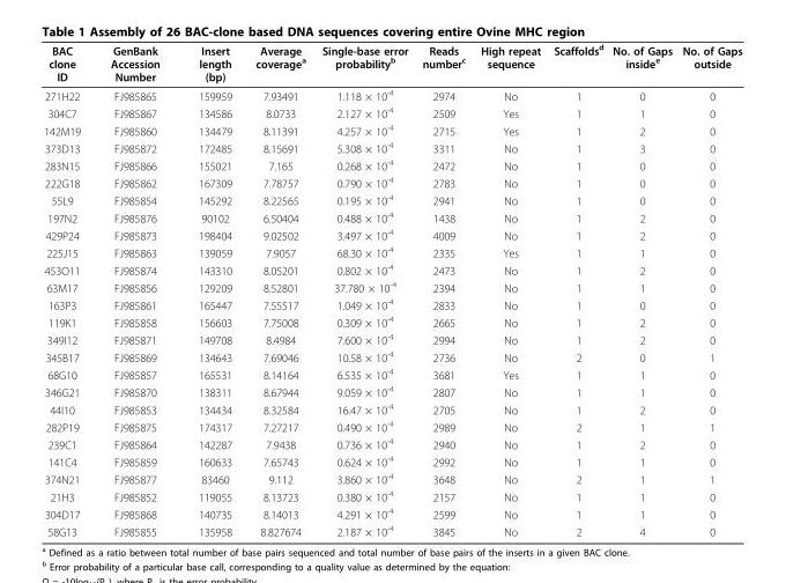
<table><thead><tr><td>BAC clone ID</td><td>GenBank Accession Number</td><td>Insert length (bp)</td><td>Average coverage<sup>a</sup></td><td>Single-base error probability<sup>b</sup></td><td>Reads number<sup>c</sup></td><td>High repeat sequence</td><td>Scaffolds<sup>d</sup></td><td>No. of Gaps inside<sup>e</sup></td><td>No. of Gaps outside</td></tr></thead><tbody><tr><td>271H22</td><td>FJ985865</td><td>159959</td><td>7.93491</td><td>1.118 × 10<sup>-4</sup></td><td>2974</td><td>No</td><td>1</td><td>0</td><td>0</td></tr><tr><td>304C7</td><td>FJ985867</td><td>134586</td><td>8.0733</td><td>2.127 × 10<sup>-4</sup></td><td>2509</td><td>Yes</td><td>1</td><td>1</td><td>0</td></tr><tr><td>142M19</td><td>FJ985860</td><td>134479</td><td>8.11391</td><td>4.257 × 10<sup>-4</sup></td><td>2715</td><td>Yes</td><td>1</td><td>2</td><td>0</td></tr><tr><td>373D13</td><td>FJ985872</td><td>172485</td><td>8.15691</td><td>5.308 × 10<sup>-4</sup></td><td>3311</td><td>No</td><td>1</td><td>3</td><td>0</td></tr><tr><td>283N15</td><td>FJ985866</td><td>155021</td><td>7.165</td><td>0.268 × 10<sup>-4</sup></td><td>2472</td><td>No</td><td>1</td><td>0</td><td>0</td></tr><tr><td>222G18</td><td>FJ985862</td><td>167309</td><td>7.78757</td><td>0.790 × 10<sup>-4</sup></td><td>2783</td><td>No</td><td>1</td><td>0</td><td>0</td></tr><tr><td>55L9</td><td>FJ985854</td><td>145292</td><td>8.22565</td><td>0.195 × 10<sup>-4</sup></td><td>2941</td><td>No</td><td>1</td><td>0</td><td>0</td></tr><tr><td>197N2</td><td>FJ985876</td><td>90102</td><td>6.50404</td><td>0.488 × 10<sup>-4</sup></td><td>1438</td><td>No</td><td>1</td><td>2</td><td>0</td></tr><tr><td>429P24</td><td>FJ985873</td><td>198404</td><td>9.02502</td><td>3.497 × 10<sup>-4</sup></td><td>4009</td><td>No</td><td>1</td><td>2</td><td>0</td></tr><tr><td>225J15</td><td>FJ985863</td><td>139059</td><td>7.9057</td><td>68.30 × 10<sup>-4</sup></td><td>2335</td><td>Yes</td><td>1</td><td>1</td><td>0</td></tr><tr><td>453O11</td><td>FJ985874</td><td>143310</td><td>8.05201</td><td>0.802 × 10<sup>-4</sup></td><td>2473</td><td>No</td><td>1</td><td>2</td><td>0</td></tr><tr><td>63M17</td><td>FJ985856</td><td>129209</td><td>8.52801</td><td>37.780 × 10<sup>-4</sup></td><td>2394</td><td>No</td><td>1</td><td>1</td><td>0</td></tr><tr><td>163P3</td><td>FJ985861</td><td>165447</td><td>7.55517</td><td>1.049 × 10<sup>-4</sup></td><td>2833</td><td>No</td><td>1</td><td>0</td><td>0</td></tr><tr><td>119K1</td><td>FJ985858</td><td>156603</td><td>7.75008</td><td>0.309 × 10<sup>-4</sup></td><td>2665</td><td>No</td><td>1</td><td>2</td><td>0</td></tr><tr><td>349I12</td><td>FJ985871</td><td>149708</td><td>8.4984</td><td>7.600 × 10<sup>-4</sup></td><td>2994</td><td>No</td><td>1</td><td>2</td><td>0</td></tr><tr><td>345B17</td><td>FJ985869</td><td>134643</td><td>7.69046</td><td>10.58 × 10<sup>-4</sup></td><td>2736</td><td>No</td><td>2</td><td>0</td><td>1</td></tr><tr><td>68G10</td><td>FJ985857</td><td>165531</td><td>8.14164</td><td>6.535 × 10<sup>-4</sup></td><td>3681</td><td>Yes</td><td>1</td><td>1</td><td>0</td></tr><tr><td>346G21</td><td>FJ985870</td><td>138311</td><td>8.67944</td><td>9.059 × 10<sup>-4</sup></td><td>2807</td><td>No</td><td>1</td><td>1</td><td>0</td></tr><tr><td>44I10</td><td>FJ985853</td><td>134434</td><td>8.32584</td><td>16.47 × 10<sup>-4</sup></td><td>2705</td><td>No</td><td>1</td><td>2</td><td>0</td></tr><tr><td>282P19</td><td>FJ985875</td><td>174317</td><td>7.27217</td><td>0.490 × 10<sup>-4</sup></td><td>2989</td><td>No</td><td>2</td><td>1</td><td>1</td></tr><tr><td>239C1</td><td>FJ985864</td><td>142287</td><td>7.9438</td><td>0.736 × 10<sup>-4</sup></td><td>2940</td><td>No</td><td>1</td><td>2</td><td>0</td></tr><tr><td>141C4</td><td>FJ985859</td><td>160633</td><td>7.65743</td><td>0.624 × 10<sup>-4</sup></td><td>2992</td><td>No</td><td>1</td><td>1</td><td>0</td></tr><tr><td>374N21</td><td>FJ985877</td><td>83460</td><td>9.112</td><td>3.860 × 10<sup>-4</sup></td><td>3648</td><td>No</td><td>2</td><td>1</td><td>1</td></tr><tr><td>21H3</td><td>FJ985852</td><td>119055</td><td>8.13723</td><td>0.380 × 10<sup>-4</sup></td><td>2157</td><td>No</td><td>1</td><td>1</td><td>0</td></tr><tr><td>304D17</td><td>FJ985868</td><td>140735</td><td>8.14013</td><td>4.291 × 10<sup>-4</sup></td><td>2599</td><td>No</td><td>1</td><td>1</td><td>0</td></tr><tr><td>58G13</td><td>FJ985855</td><td>135958</td><td>8.827674</td><td>2.187 × 10<sup>-4</sup></td><td>3845</td><td>No</td><td>2</td><td>4</td><td>0</td></tr></tbody></table>